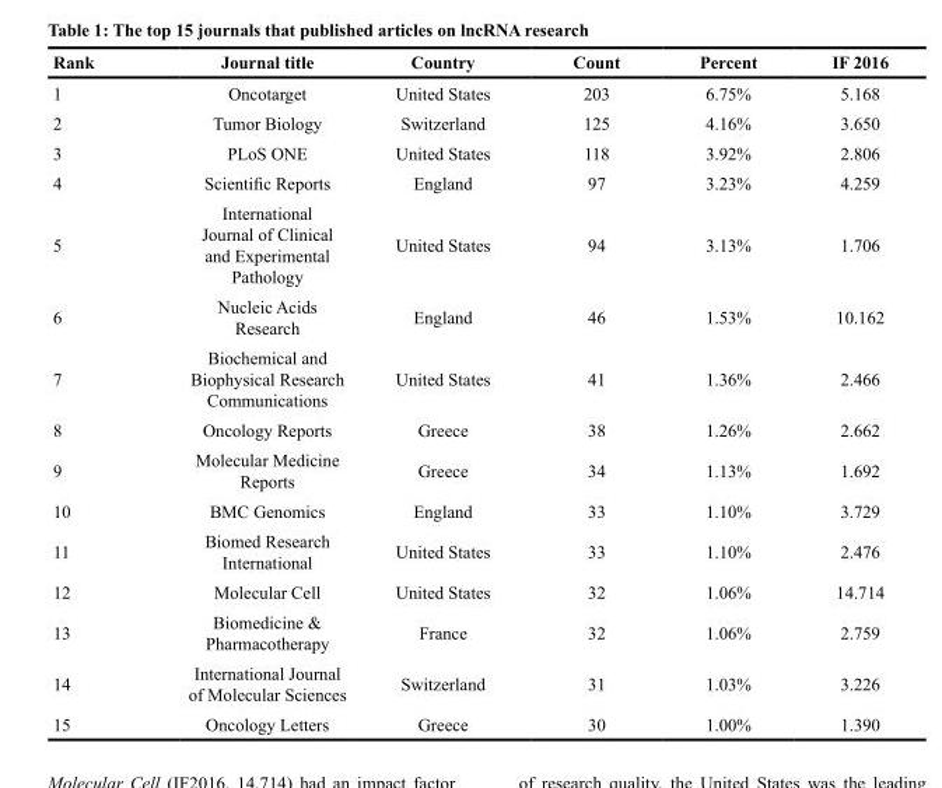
<table><thead><tr><td>Rank</td><td>Journal title</td><td>Country</td><td>Count</td><td>Percent</td><td>IF 2016</td></tr></thead><tbody><tr><td>1</td><td>Oncotarget</td><td>United States</td><td>203</td><td>6.75%</td><td>5.168</td></tr><tr><td>2</td><td>Tumor Biology</td><td>Switzerland</td><td>125</td><td>4.16%</td><td>3.650</td></tr><tr><td>3</td><td>PLoS ONE</td><td>United States</td><td>118</td><td>3.92%</td><td>2.806</td></tr><tr><td>4</td><td>Scientific Reports</td><td>England</td><td>97</td><td>3.23%</td><td>4.259</td></tr><tr><td>5</td><td>International Journal of Clinical and Experimental Pathology</td><td>United States</td><td>94</td><td>3.13%</td><td>1.706</td></tr><tr><td>6</td><td>Nucleic Acids Research</td><td>England</td><td>46</td><td>1.53%</td><td>10.162</td></tr><tr><td>7</td><td>Biochemical and Biophysical Research Communications</td><td>United States</td><td>41</td><td>1.36%</td><td>2.466</td></tr><tr><td>8</td><td>Oncology Reports</td><td>Greece</td><td>38</td><td>1.26%</td><td>2.662</td></tr><tr><td>9</td><td>Molecular Medicine Reports</td><td>Greece</td><td>34</td><td>1.13%</td><td>1.692</td></tr><tr><td>10</td><td>BMC Genomics</td><td>England</td><td>33</td><td>1.10%</td><td>3.729</td></tr><tr><td>11</td><td>Biomed Research International</td><td>United States</td><td>33</td><td>1.10%</td><td>2.476</td></tr><tr><td>12</td><td>Molecular Cell</td><td>United States</td><td>32</td><td>1.06%</td><td>14.714</td></tr><tr><td>13</td><td>Biomedicine &amp; Pharmacotherapy</td><td>France</td><td>32</td><td>1.06%</td><td>2.759</td></tr><tr><td>14</td><td>International Journal of Molecular Sciences</td><td>Switzerland</td><td>31</td><td>1.03%</td><td>3.226</td></tr><tr><td>15</td><td>Oncology Letters</td><td>Greece</td><td>30</td><td>1.00%</td><td>1.390</td></tr></tbody></table>